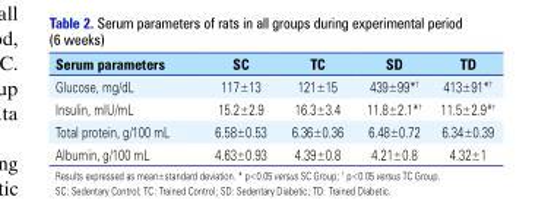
<table><thead><tr><td>Serum parameters</td><td>SC</td><td>TC</td><td>SD</td><td>TD</td></tr></thead><tbody><tr><td>Glucose, mg/dL</td><td>117±13</td><td>121±15</td><td>439±99*<sup>†</sup></td><td>413±91*<sup>†</sup></td></tr><tr><td>Insulin, mIU/mL</td><td>15.2±2.9</td><td>16.3±3.4</td><td>11.8±2.1*<sup>†</sup></td><td>11.5±2.9*<sup>†</sup></td></tr><tr><td>Total protein, g/100 mL</td><td>6.58±0.53</td><td>6.36±0.36</td><td>6.48±0.72</td><td>6.34±0.39</td></tr><tr><td>Albumin, g/100 mL</td><td>4.63±0.93</td><td>4.39±0.8</td><td>4.21±0.8</td><td>4.32±1</td></tr></tbody></table>